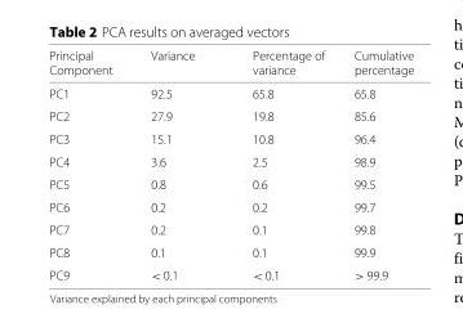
<table><thead><tr><td>Principal Component</td><td>Variance</td><td>Percentage of variance</td><td>Cumulative percentage</td></tr></thead><tbody><tr><td>PC1</td><td>92.5</td><td>65.8</td><td>65.8</td></tr><tr><td>PC2</td><td>27.9</td><td>19.8</td><td>85.6</td></tr><tr><td>PC3</td><td>15.1</td><td>10.8</td><td>96.4</td></tr><tr><td>PC4</td><td>3.6</td><td>2.5</td><td>98.9</td></tr><tr><td>PC5</td><td>0.8</td><td>0.6</td><td>99.5</td></tr><tr><td>PC6</td><td>0.2</td><td>0.2</td><td>99.7</td></tr><tr><td>PC7</td><td>0.2</td><td>0.1</td><td>99.8</td></tr><tr><td>PC8</td><td>0.1</td><td>0.1</td><td>99.9</td></tr><tr><td>PC9</td><td>&lt; 0.1</td><td>&lt; 0.1</td><td>&gt; 99.9</td></tr></tbody></table>